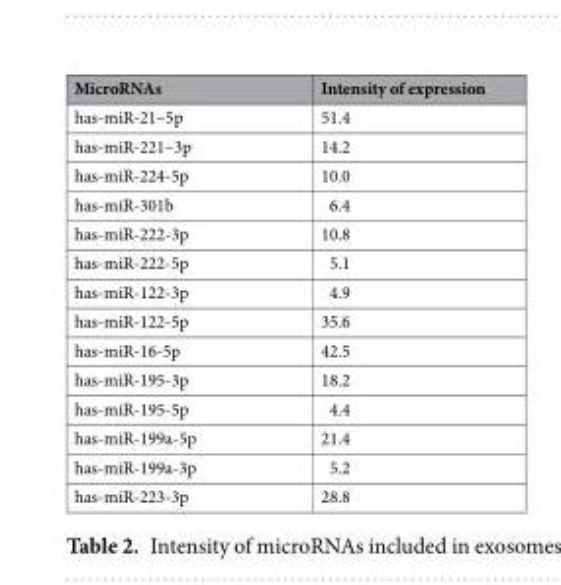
<table><thead><tr><td>MicroRNAs</td><td>Intensity of expression</td></tr></thead><tbody><tr><td>has-miR-21–5p</td><td>51.4</td></tr><tr><td>has-miR-221–3p</td><td>14.2</td></tr><tr><td>has-miR-224-5p</td><td>10.0</td></tr><tr><td>has-miR-301b</td><td>6.4</td></tr><tr><td>has-miR-222-3p</td><td>10.8</td></tr><tr><td>has-miR-222-5p</td><td>5.1</td></tr><tr><td>has-miR-122-3p</td><td>4.9</td></tr><tr><td>has-miR-122-5p</td><td>35.6</td></tr><tr><td>has-miR-16-5p</td><td>42.5</td></tr><tr><td>has-miR-195-3p</td><td>18.2</td></tr><tr><td>has-miR-195-5p</td><td>4.4</td></tr><tr><td>has-miR-199a-5p</td><td>21.4</td></tr><tr><td>has-miR-199a-3p</td><td>5.2</td></tr><tr><td>has-miR-223-3p</td><td>28.8</td></tr></tbody></table>